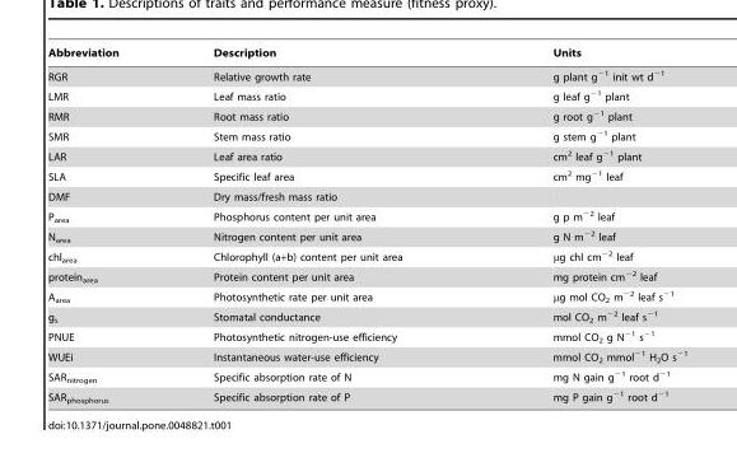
<table><thead><tr><td>Abbreviation</td><td>Description</td><td>Units</td></tr></thead><tbody><tr><td>RGR</td><td>Relative growth rate</td><td>g plant g<sup>−1</sup> init wt d<sup>−1</sup></td></tr><tr><td>LMR</td><td>Leaf mass ratio</td><td>g leaf g<sup>−1</sup> plant</td></tr><tr><td>RMR</td><td>Root mass ratio</td><td>g root g<sup>−1</sup> plant</td></tr><tr><td>SMR</td><td>Stem mass ratio</td><td>g stem g<sup>−1</sup> plant</td></tr><tr><td>LAR</td><td>Leaf area ratio</td><td>cm<sup>2</sup> leaf g<sup>−1</sup> plant</td></tr><tr><td>SLA</td><td>Specific leaf area</td><td>cm<sup>2</sup> mg<sup>−1</sup> leaf</td></tr><tr><td>DMF</td><td>Dry mass/fresh mass ratio</td><td></td></tr><tr><td>P<sub>area</sub></td><td>Phosphorus content per unit area</td><td>g p m<sup>−2</sup> leaf</td></tr><tr><td>N<sub>area</sub></td><td>Nitrogen content per unit area</td><td>g N m<sup>−2</sup> leaf</td></tr><tr><td>chl<sub>area</sub></td><td>Chlorophyll (a+b) content per unit area</td><td>μg chl cm<sup>−2</sup> leaf</td></tr><tr><td>protein<sub>area</sub></td><td>Protein content per unit area</td><td>mg protein cm<sup>−2</sup> leaf</td></tr><tr><td>A<sub>area</sub></td><td>Photosynthetic rate per unit area</td><td>μg mol CO<sub>2</sub> m<sup>−2</sup> leaf s<sup>−1</sup></td></tr><tr><td>g<sub>s</sub></td><td>Stomatal conductance</td><td>mol CO<sub>2</sub> m<sup>−2</sup> leaf s<sup>−1</sup></td></tr><tr><td>PNUE</td><td>Photosynthetic nitrogen-use efficiency</td><td>mmol CO<sub>2</sub> g N<sup>−1</sup> s<sup>−1</sup></td></tr><tr><td>WUEi</td><td>Instantaneous water-use efficiency</td><td>mmol CO<sub>2</sub> mmol<sup>−1</sup> H<sub>2</sub>O s<sup>−1</sup></td></tr><tr><td>SAR<sub>nitrogen</sub></td><td>Specific absorption rate of N</td><td>mg N gain g<sup>−1</sup> root d<sup>−1</sup></td></tr><tr><td>SAR<sub>phosphorus</sub></td><td>Specific absorption rate of P</td><td>mg P gain g<sup>−1</sup> root d<sup>−1</sup></td></tr></tbody></table>